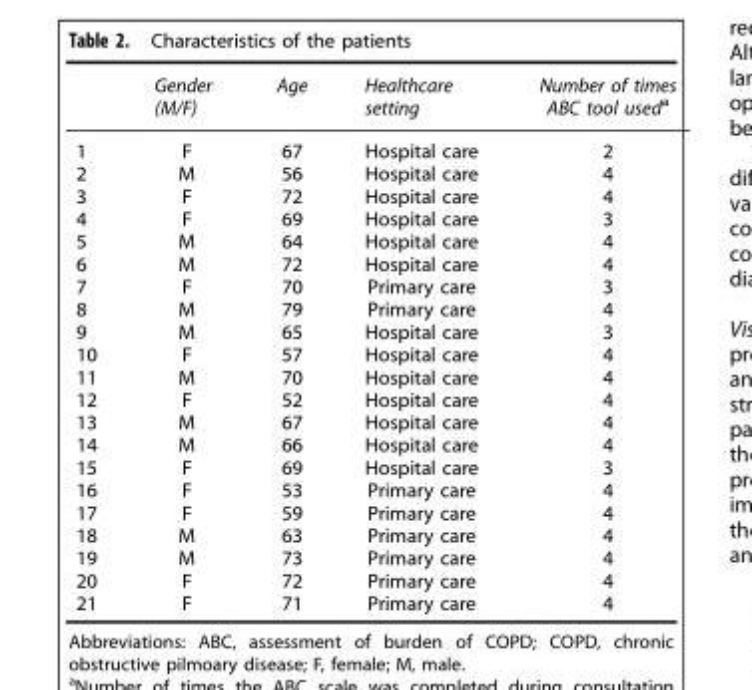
<table><thead><tr><td></td><td>Gender (M/F)</td><td>Age</td><td>Healthcare setting</td><td>Number of times ABC tool used<sup>a</sup></td></tr></thead><tbody><tr><td>1</td><td>F</td><td>67</td><td>Hospital care</td><td>2</td></tr><tr><td>2</td><td>M</td><td>56</td><td>Hospital care</td><td>4</td></tr><tr><td>3</td><td>F</td><td>72</td><td>Hospital care</td><td>4</td></tr><tr><td>4</td><td>F</td><td>69</td><td>Hospital care</td><td>3</td></tr><tr><td>5</td><td>M</td><td>64</td><td>Hospital care</td><td>4</td></tr><tr><td>6</td><td>M</td><td>72</td><td>Hospital care</td><td>4</td></tr><tr><td>7</td><td>F</td><td>70</td><td>Primary care</td><td>3</td></tr><tr><td>8</td><td>M</td><td>79</td><td>Primary care</td><td>4</td></tr><tr><td>9</td><td>M</td><td>65</td><td>Hospital care</td><td>3</td></tr><tr><td>10</td><td>F</td><td>57</td><td>Hospital care</td><td>4</td></tr><tr><td>11</td><td>M</td><td>70</td><td>Hospital care</td><td>4</td></tr><tr><td>12</td><td>F</td><td>52</td><td>Hospital care</td><td>4</td></tr><tr><td>13</td><td>M</td><td>67</td><td>Hospital care</td><td>4</td></tr><tr><td>14</td><td>M</td><td>66</td><td>Hospital care</td><td>4</td></tr><tr><td>15</td><td>F</td><td>69</td><td>Hospital care</td><td>3</td></tr><tr><td>16</td><td>F</td><td>53</td><td>Primary care</td><td>4</td></tr><tr><td>17</td><td>F</td><td>59</td><td>Primary care</td><td>4</td></tr><tr><td>18</td><td>M</td><td>63</td><td>Primary care</td><td>4</td></tr><tr><td>19</td><td>M</td><td>73</td><td>Primary care</td><td>4</td></tr><tr><td>20</td><td>F</td><td>72</td><td>Primary care</td><td>4</td></tr><tr><td>21</td><td>F</td><td>71</td><td>Primary care</td><td>4</td></tr></tbody></table>